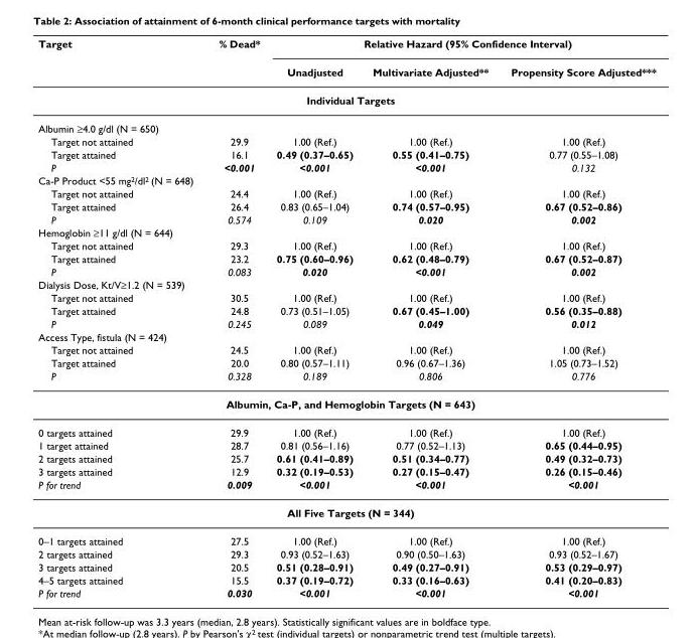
<table><thead><tr><td rowspan="2">Target</td><td rowspan="2">% Dead*</td><td colspan="3">Relative Hazard (95% Confidence Interval)</td></tr><tr><td>Unadjusted</td><td>Multivariate Adjusted**</td><td>Propensity Score Adjusted***</td></tr></thead><tbody><tr><td colspan="5">Individual Targets</td></tr><tr><td colspan="5">Albumin ≥4.0 g/dl (N = 650)</td></tr><tr><td>Target not attained</td><td>29.9</td><td>1.00 (Ref.)</td><td>1.00 (Ref.)</td><td>1.00 (Ref.)</td></tr><tr><td>Target attained</td><td>16.1</td><td>0.49 (0.37–0.65)</td><td>0.55 (0.41–0.75)</td><td>0.77 (0.55–1.08)</td></tr><tr><td>P</td><td>&lt;0.001</td><td>&lt;0.001</td><td>&lt;0.001</td><td>0.132</td></tr><tr><td colspan="5">Ca-P Product &lt;55 mg<sup>2</sup>/dl<sup>2</sup> (N = 648)</td></tr><tr><td>Target not attained</td><td>24.4</td><td>1.00 (Ref.)</td><td>1.00 (Ref.)</td><td>1.00 (Ref.)</td></tr><tr><td>Target attained</td><td>26.4</td><td>0.83 (0.65–1.04)</td><td>0.74 (0.57–0.95)</td><td>0.67 (0.52–0.86)</td></tr><tr><td>P</td><td>0.574</td><td>0.109</td><td>0.020</td><td>0.002</td></tr><tr><td colspan="5">Hemoglobin ≥11 g/dl (N = 644)</td></tr><tr><td>Target not attained</td><td>29.3</td><td>1.00 (Ref.)</td><td>1.00 (Ref.)</td><td>1.00 (Ref.)</td></tr><tr><td>Target attained</td><td>23.2</td><td>0.75 (0.60–0.96)</td><td>0.62 (0.48–0.79)</td><td>0.67 (0.52–0.87)</td></tr><tr><td>P</td><td>0.083</td><td>0.020</td><td>&lt;0.001</td><td>0.002</td></tr><tr><td colspan="5">Dialysis Dose, Kt/V≥1.2 (N = 539)</td></tr><tr><td>Target not attained</td><td>30.5</td><td>1.00 (Ref.)</td><td>1.00 (Ref.)</td><td>1.00 (Ref.)</td></tr><tr><td>Target attained</td><td>24.8</td><td>0.73 (0.51–1.05)</td><td>0.67 (0.45–1.00)</td><td>0.56 (0.35–0.88)</td></tr><tr><td>P</td><td>0.245</td><td>0.089</td><td>0.049</td><td>0.012</td></tr><tr><td colspan="5">Access Type, fistula (N = 424)</td></tr><tr><td>Target not attained</td><td>24.5</td><td>1.00 (Ref.)</td><td>1.00 (Ref.)</td><td>1.00 (Ref.)</td></tr><tr><td>Target attained</td><td>20.0</td><td>0.80 (0.57–1.11)</td><td>0.96 (0.67–1.36)</td><td>1.05 (0.73–1.52)</td></tr><tr><td>P</td><td>0.328</td><td>0.189</td><td>0.806</td><td>0.776</td></tr><tr><td colspan="5">Albumin, Ca-P, and Hemoglobin Targets (N = 643)</td></tr><tr><td>0 targets attained</td><td>29.9</td><td>1.00 (Ref.)</td><td>1.00 (Ref.)</td><td>1.00 (Ref.)</td></tr><tr><td>1 target attained</td><td>28.7</td><td>0.81 (0.56–1.16)</td><td>0.77 (0.52–1.13)</td><td>0.65 (0.44–0.95)</td></tr><tr><td>2 targets attained</td><td>25.7</td><td>0.61 (0.41–0.89)</td><td>0.51 (0.34–0.77)</td><td>0.49 (0.32–0.73)</td></tr><tr><td>3 targets attained</td><td>12.9</td><td>0.32 (0.19–0.53)</td><td>0.27 (0.15–0.47)</td><td>0.26 (0.15–0.46)</td></tr><tr><td>P for trend</td><td>0.009</td><td>&lt;0.001</td><td>&lt;0.001</td><td>&lt;0.001</td></tr><tr><td colspan="5">All Five Targets (N = 344)</td></tr><tr><td>0–1 targets attained</td><td>27.5</td><td>1.00 (Ref.)</td><td>1.00 (Ref.)</td><td>1.00 (Ref.)</td></tr><tr><td>2 targets attained</td><td>29.3</td><td>0.93 (0.52–1.63)</td><td>0.90 (0.50–1.63)</td><td>0.93 (0.52–1.67)</td></tr><tr><td>3 targets attained</td><td>20.5</td><td>0.51 (0.28–0.91)</td><td>0.49 (0.27–0.91)</td><td>0.53 (0.29–0.97)</td></tr><tr><td>4–5 targets attained</td><td>15.5</td><td>0.37 (0.19–0.72)</td><td>0.33 (0.16–0.63)</td><td>0.41 (0.20–0.83)</td></tr><tr><td>P for trend</td><td>0.030</td><td>&lt;0.001</td><td>&lt;0.001</td><td>&lt;0.001</td></tr></tbody></table>